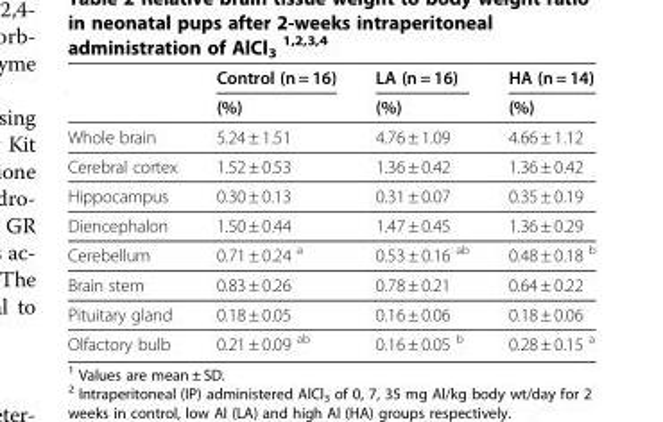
<table><thead><tr><td rowspan="2"></td><td rowspan="2">Control (n = 16) (%)</td><td rowspan="2">LA (n = 16) (%)</td><td rowspan="2">HA (n = 14) (%)</td></tr><tr></tr></thead><tbody><tr><td>Whole brain</td><td>5.24 ± 1.51</td><td>4.76 ± 1.09</td><td>4.66 ± 1.12</td></tr><tr><td>Cerebral cortex</td><td>1.52 ± 0.53</td><td>1.36 ± 0.42</td><td>1.36 ± 0.42</td></tr><tr><td>Hippocampus</td><td>0.30 ± 0.13</td><td>0.31 ± 0.07</td><td>0.35 ± 0.19</td></tr><tr><td>Diencephalon</td><td>1.50 ± 0.44</td><td>1.47 ± 0.45</td><td>1.36 ± 0.29</td></tr><tr><td>Cerebellum</td><td>0.71 ± 0.24 <sup>a</sup></td><td>0.53 ± 0.16 <sup>ab</sup></td><td>0.48 ± 0.18 <sup>b</sup></td></tr><tr><td>Brain stem</td><td>0.83 ± 0.26</td><td>0.78 ± 0.21</td><td>0.64 ± 0.22</td></tr><tr><td>Pituitary gland</td><td>0.18 ± 0.05</td><td>0.16 ± 0.06</td><td>0.18 ± 0.06</td></tr><tr><td>Olfactory bulb</td><td>0.21 ± 0.09 <sup>ab</sup></td><td>0.16 ± 0.05 <sup>b</sup></td><td>0.28 ± 0.15 <sup>a</sup></td></tr></tbody></table>